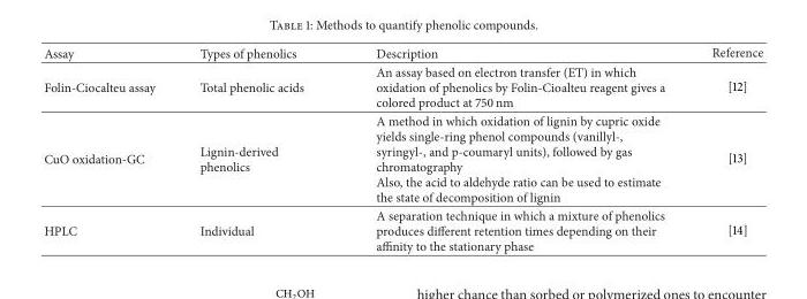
<table><thead><tr><td>Assay</td><td>Types of phenolics</td><td>Description</td><td>Reference</td></tr></thead><tbody><tr><td>Folin-Ciocalteu assay</td><td>Total phenolic acids</td><td>An assay based on electron transfer (ET) in which oxidation of phenolics by Folin-Cioalteu reagent gives a colored product at 750 nm</td><td>[12]</td></tr><tr><td>CuO oxidation-GC</td><td>Lignin-derived phenolics</td><td>A method in which oxidation of lignin by cupric oxide yields single-ring phenol compounds (vanillyl-, syringyl-, and p-coumaryl units), followed by gas chromatography Also, the acid to aldehyde ratio can be used to estimate the state of decomposition of lignin</td><td>[13]</td></tr><tr><td>HPLC</td><td>Individual</td><td>A separation technique in which a mixture of phenolics produces different retention times depending on their affinity to the stationary phase</td><td>[14]</td></tr></tbody></table>